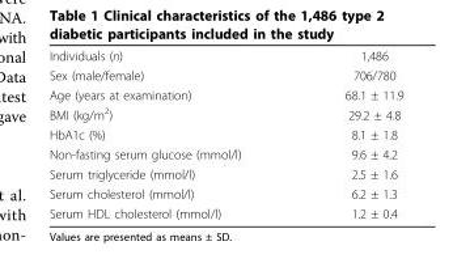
<table><tbody><tr><td>Individuals (n)</td><td>1,486</td></tr><tr><td>Sex (male/female)</td><td>706/780</td></tr><tr><td>Age (years at examination)</td><td>68.1 ± 11.9</td></tr><tr><td>BMI (kg/m<sup>2</sup>)</td><td>29.2 ± 4.8</td></tr><tr><td>HbA1c (%)</td><td>8.1 ± 1.8</td></tr><tr><td>Non-fasting serum glucose (mmol/l)</td><td>9.6 ± 4.2</td></tr><tr><td>Serum triglyceride (mmol/l)</td><td>2.5 ± 1.6</td></tr><tr><td>Serum cholesterol (mmol/l)</td><td>6.2 ± 1.3</td></tr><tr><td>Serum HDL cholesterol (mmol/l)</td><td>1.2 ± 0.4</td></tr></tbody></table>